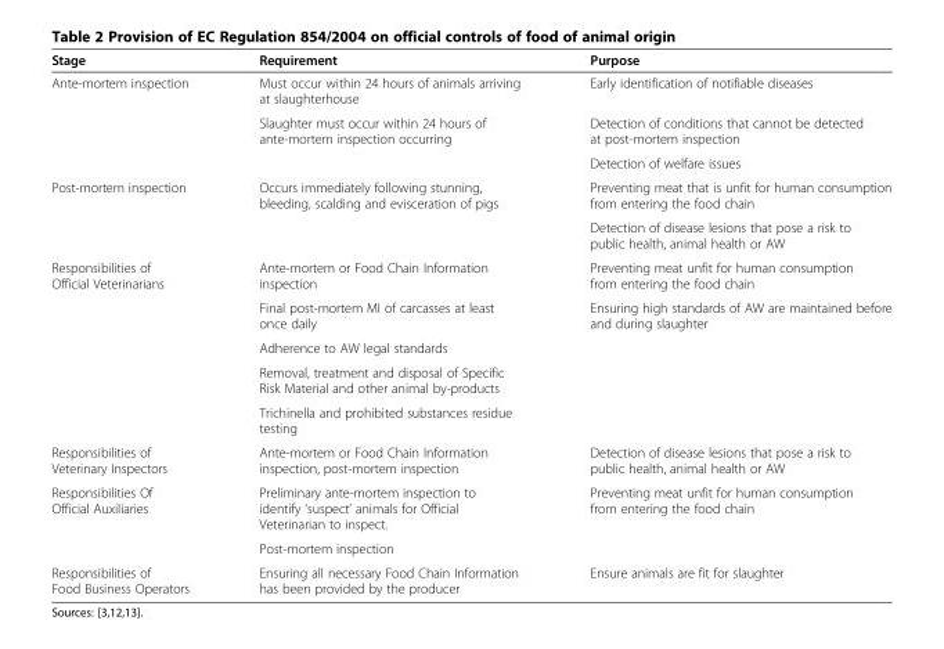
<table><thead><tr><td>Stage</td><td>Requirement</td><td>Purpose</td></tr></thead><tbody><tr><td rowspan="3">Ante-mortem inspection</td><td>Must occur within 24 hours of animals arriving at slaughterhouse</td><td>Early identification of notifiable diseases</td></tr><tr><td>Slaughter must occur within 24 hours of ante-mortem inspection occurring</td><td>Detection of conditions that cannot be detected at post-mortem inspection</td></tr><tr><td></td><td>Detection of welfare issues</td></tr><tr><td rowspan="2">Post-mortem inspection</td><td>Occurs immediately following stunning, bleeding, scalding and evisceration of pigs</td><td>Preventing meat that is unfit for human consumption from entering the food chain</td></tr><tr><td></td><td>Detection of disease lesions that pose a risk to public health, animal health or AW</td></tr><tr><td rowspan="5">Responsibilities of Official Veterinarians</td><td>Ante-mortem or Food Chain Information inspection</td><td>Preventing meat unfit for human consumption from entering the food chain</td></tr><tr><td>Final post-mortem MI of carcasses at least once daily</td><td>Ensuring high standards of AW are maintained before and during slaughter</td></tr><tr><td>Adherence to AW legal standards</td><td></td></tr><tr><td>Removal, treatment and disposal of Specific Risk Material and other animal by-products</td><td></td></tr><tr><td>Trichinella and prohibited substances residue testing</td><td></td></tr><tr><td>Responsibilities of Veterinary Inspectors</td><td>Ante-mortem or Food Chain Information inspection, post-mortem inspection</td><td>Detection of disease lesions that pose a risk to public health, animal health or AW</td></tr><tr><td rowspan="2">Responsibilities Of Official Auxiliaries</td><td>Preliminary ante-mortem inspection to identify ‘suspect’ animals for Official Veterinarian to inspect.</td><td>Preventing meat unfit for human consumption from entering the food chain</td></tr><tr><td>Post-mortem inspection</td><td></td></tr><tr><td>Responsibilities of Food Business Operators</td><td>Ensuring all necessary Food Chain Information has been provided by the producer</td><td>Ensure animals are fit for slaughter</td></tr></tbody></table>